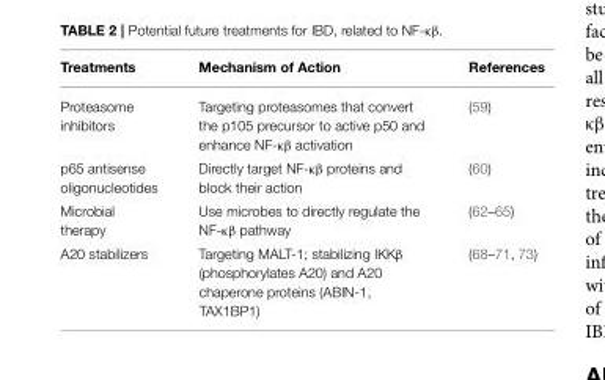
<table><thead><tr><td>Treatments</td><td>Mechanism of Action</td><td>References</td></tr></thead><tbody><tr><td>Proteasome inhibitors</td><td>Targeting proteasomes that convert the p105 precursor to active p50 and enhance NF-κβ activation</td><td>(59)</td></tr><tr><td>p65 antisense oligonucleotides</td><td>Directly target NF-κβ proteins and block their action</td><td>(60)</td></tr><tr><td>Microbial therapy</td><td>Use microbes to directly regulate the NF-κβ pathway</td><td>(62–65)</td></tr><tr><td>A20 stabilizers</td><td>Targeting MALT-1; stabilizing IKKβ (phosphorylates A20) and A20 chaperone proteins (ABIN-1, TAX1BP1)</td><td>(68–71, 73)</td></tr></tbody></table>